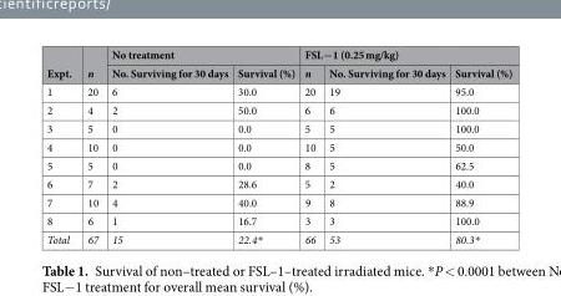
<table><thead><tr><td rowspan="2">Expt.</td><td rowspan="2">n</td><td colspan="2">No treatment</td><td colspan="3">FSL−1 (0.25 mg/kg)</td></tr><tr><td>No. Surviving for 30 days</td><td>Survival (%)</td><td>n</td><td>No. Surviving for 30 days</td><td>Survival (%)</td></tr></thead><tbody><tr><td>1</td><td>20</td><td>6</td><td>30.0</td><td>20</td><td>19</td><td>95.0</td></tr><tr><td>2</td><td>4</td><td>2</td><td>50.0</td><td>6</td><td>6</td><td>100.0</td></tr><tr><td>3</td><td>5</td><td>0</td><td>0.0</td><td>5</td><td>5</td><td>100.0</td></tr><tr><td>4</td><td>10</td><td>0</td><td>0.0</td><td>10</td><td>5</td><td>50.0</td></tr><tr><td>5</td><td>5</td><td>0</td><td>0.0</td><td>8</td><td>5</td><td>62.5</td></tr><tr><td>6</td><td>7</td><td>2</td><td>28.6</td><td>5</td><td>2</td><td>40.0</td></tr><tr><td>7</td><td>10</td><td>4</td><td>40.0</td><td>9</td><td>8</td><td>88.9</td></tr><tr><td>8</td><td>6</td><td>1</td><td>16.7</td><td>3</td><td>3</td><td>100.0</td></tr><tr><td>Total</td><td>67</td><td>15</td><td>22.4*</td><td>66</td><td>53</td><td>80.3*</td></tr></tbody></table>